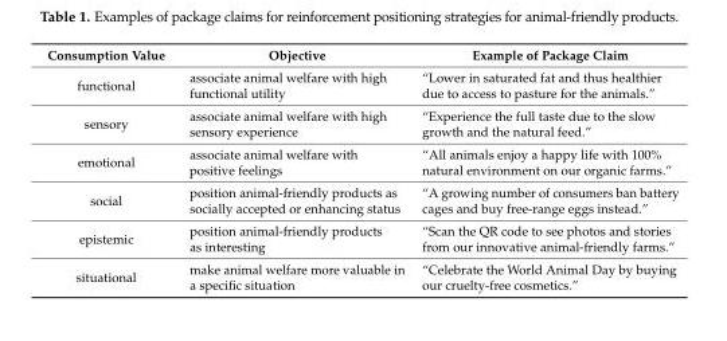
<table><thead><tr><td>Consumption Value</td><td>Objective</td><td>Example of Package Claim</td></tr></thead><tbody><tr><td>functional</td><td>associate animal welfare with high functional utility</td><td>“Lower in saturated fat and thus healthier due to access to pasture for the animals.”</td></tr><tr><td>sensory</td><td>associate animal welfare with high sensory experience</td><td>“Experience the full taste due to the slow growth and the natural feed.”</td></tr><tr><td>emotional</td><td>associate animal welfare with positive feelings</td><td>“All animals enjoy a happy life with 100% natural environment on our organic farms.”</td></tr><tr><td>social</td><td>position animal-friendly products as socially accepted or enhancing status</td><td>“A growing number of consumers ban battery cages and buy free-range eggs instead.”</td></tr><tr><td>epistemic</td><td>position animal-friendly products as interesting</td><td>“Scan the QR code to see photos and stories from our innovative animal-friendly farms.”</td></tr><tr><td>situational</td><td>make animal welfare more valuable in a specific situation</td><td>“Celebrate the World Animal Day by buying our cruelty-free cosmetics.”</td></tr></tbody></table>